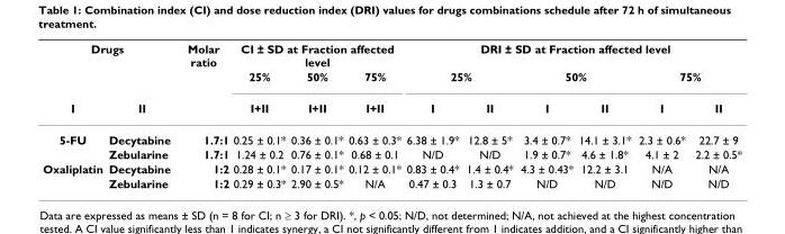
<table><thead><tr><td colspan="2">Drugs</td><td rowspan="3">Molar ratio</td><td colspan="3">CI ± SD at Fraction affected level</td><td colspan="6">DRI ± SD at Fraction affected level</td></tr><tr><td rowspan="2">I</td><td rowspan="2">II</td><td rowspan="2">25% I+II</td><td rowspan="2">50% I+II</td><td rowspan="2">75% I+II</td><td colspan="2">25%</td><td colspan="2">50%</td><td colspan="2">75%</td></tr><tr><td>I</td><td>II</td><td>I</td><td>II</td><td>I</td><td>II</td></tr></thead><tbody><tr><td rowspan="2">5-FU</td><td>Decytabine</td><td>1.7:1</td><td>0.25 ± 0.1*</td><td>0.36 ± 0.1*</td><td>0.63 ± 0.3*</td><td>6.38 ± 1.9*</td><td>12.8 ± 5*</td><td>3.4 ± 0.7*</td><td>14.1 ± 3.1*</td><td>2.3 ± 0.6*</td><td>22.7 ± 9</td></tr><tr><td>Zebularine</td><td>1.7:1</td><td>1.24 ± 0.2</td><td>0.76 ± 0.1*</td><td>0.68 ± 0.1</td><td>N/D</td><td>N/D</td><td>1.9 ± 0.7*</td><td>4.6 ± 1.8*</td><td>4.1 ± 2</td><td>2.2 ± 0.5*</td></tr><tr><td rowspan="2">Oxaliplatin</td><td>Decytabine</td><td>1:2</td><td>0.28 ± 0.1*</td><td>0.17 ± 0.1*</td><td>0.12 ± 0.1*</td><td>0.83 ± 0.4*</td><td>1.4 ± 0.4*</td><td>4.3 ± 0.43*</td><td>12.2 ± 3.1</td><td>N/A</td><td>N/A</td></tr><tr><td>Zebularine</td><td>1:2</td><td>0.29 ± 0.3*</td><td>2.90 ± 0.5*</td><td>N/A</td><td>0.47 ± 0.3</td><td>1.3 ± 0.7</td><td>N/D</td><td>N/D</td><td>N/D</td><td>N/D</td></tr></tbody></table>